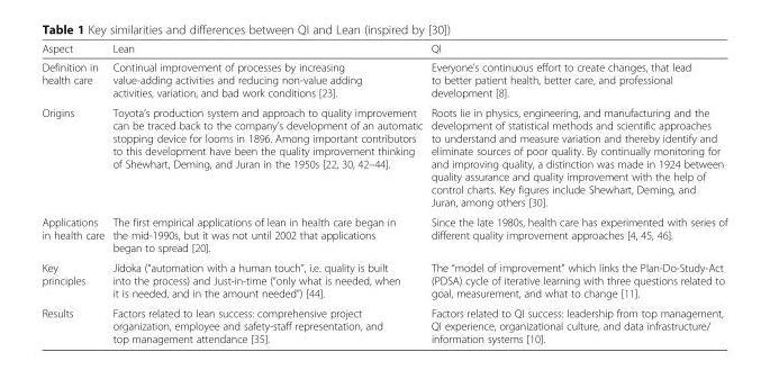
<table><thead><tr><td>Aspect</td><td>Lean</td><td>QI</td></tr></thead><tbody><tr><td>Definition in health care</td><td>Continual improvement of processes by increasing value-adding activities and reducing non-value adding activities, variation, and bad work conditions [23].</td><td>Everyone’s continuous effort to create changes, that lead to better patient health, better care, and professional development [8].</td></tr><tr><td>Origins</td><td>Toyota’s production system and approach to quality improvement can be traced back to the company’s development of an automatic stopping device for looms in 1896. Among important contributors to this development have been the quality improvement thinking of Shewhart, Deming, and Juran in the 1950s [22, 30, 42–44].</td><td>Roots lie in physics, engineering, and manufacturing and the development of statistical methods and scientific approaches to understand and measure variation and thereby identify and eliminate sources of poor quality. By continually monitoring for and improving quality, a distinction was made in 1924 between quality assurance and quality improvement with the help of control charts. Key figures include Shewhart, Deming, and Juran, among others [30].</td></tr><tr><td>Applications in health care</td><td>The first empirical applications of lean in health care began in the mid-1990s, but it was not until 2002 that applications began to spread [20].</td><td>Since the late 1980s, health care has experimented with series of different quality improvement approaches [4, 45, 46].</td></tr><tr><td>Key principles</td><td>Jidoka (“automation with a human touch”, i.e. quality is built into the process) and Just-in-time (“only what is needed, when it is needed, and in the amount needed”) [44].</td><td>The “model of improvement” which links the Plan-Do-Study-Act (PDSA) cycle of iterative learning with three questions related to goal, measurement, and what to change [11].</td></tr><tr><td>Results</td><td>Factors related to lean success: comprehensive project organization, employee and safety-staff representation, and top management attendance [35].</td><td>Factors related to QI success: leadership from top management, QI experience, organizational culture, and data infrastructure/ information systems [10].</td></tr></tbody></table>